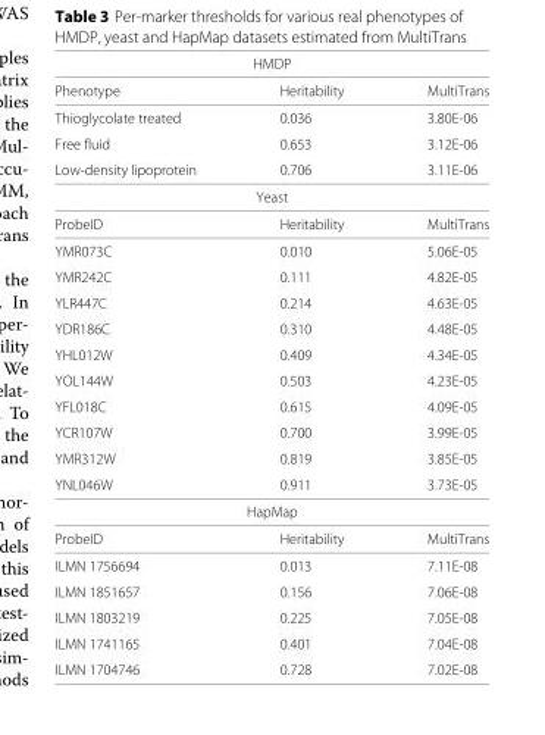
<table><thead><tr><td colspan="3">HMDP</td></tr><tr><td>Phenotype</td><td>Heritability</td><td>MultiTrans</td></tr></thead><tbody><tr><td>Thioglycolate treated</td><td>0.036</td><td>3.80E-06</td></tr><tr><td>Free fluid</td><td>0.653</td><td>3.12E-06</td></tr><tr><td>Low-density lipoprotein</td><td>0.706</td><td>3.11E-06</td></tr><tr><td colspan="3">Yeast</td></tr><tr><td>ProbeID</td><td>Heritability</td><td>MultiTrans</td></tr><tr><td>YMR073C</td><td>0.010</td><td>5.06E-05</td></tr><tr><td>YMR242C</td><td>0.111</td><td>4.82E-05</td></tr><tr><td>YLR447C</td><td>0.214</td><td>4.63E-05</td></tr><tr><td>YDR186C</td><td>0.310</td><td>4.48E-05</td></tr><tr><td>YHL012W</td><td>0.409</td><td>4.34E-05</td></tr><tr><td>YOL144W</td><td>0.503</td><td>4.23E-05</td></tr><tr><td>YFL018C</td><td>0.615</td><td>4.09E-05</td></tr><tr><td>YCR107W</td><td>0.700</td><td>3.99E-05</td></tr><tr><td>YMR312W</td><td>0.819</td><td>3.85E-05</td></tr><tr><td>YNL046W</td><td>0.911</td><td>3.73E-05</td></tr><tr><td colspan="3">HapMap</td></tr><tr><td>ProbeID</td><td>Heritability</td><td>MultiTrans</td></tr><tr><td>ILMN 1756694</td><td>0.013</td><td>7.11E-08</td></tr><tr><td>ILMN 1851657</td><td>0.156</td><td>7.06E-08</td></tr><tr><td>ILMN 1803219</td><td>0.225</td><td>7.05E-08</td></tr><tr><td>ILMN 1741165</td><td>0.401</td><td>7.04E-08</td></tr><tr><td>ILMN 1704746</td><td>0.728</td><td>7.02E-08</td></tr></tbody></table>